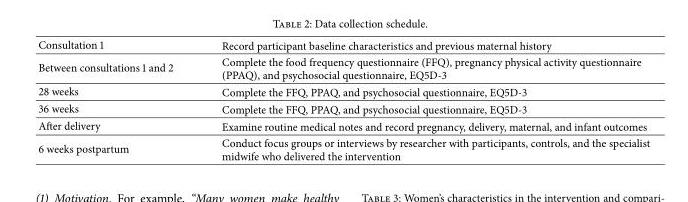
<table><tbody><tr><td>Consultation 1</td><td>Record participant baseline characteristics and previous maternal history</td></tr><tr><td>Between consultations 1 and 2</td><td>Complete the food frequency questionnaire (FFQ), pregnancy physical activity questionnaire (PPAQ), and psychosocial questionnaire, EQ5D-3</td></tr><tr><td>28 weeks</td><td>Complete the FFQ, PPAQ, and psychosocial questionnaire, EQ5D-3</td></tr><tr><td>36 weeks</td><td>Complete the FFQ, PPAQ, and psychosocial questionnaire, EQ5D-3</td></tr><tr><td>After delivery</td><td>Examine routine medical notes and record pregnancy, delivery, maternal, and infant outcomes</td></tr><tr><td>6 weeks postpartum</td><td>Conduct focus groups or interviews by researcher with participants, controls, and the specialist midwife who delivered the intervention</td></tr></tbody></table>